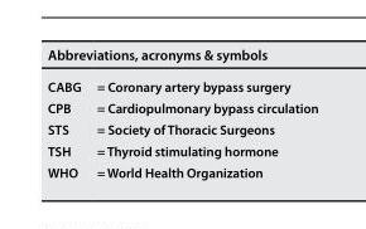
<table><thead><tr><td colspan="2">Abbreviations, acronyms &amp; symbols</td></tr><tr><td>CABG</td><td>= Coronary artery bypass surgery</td></tr></thead><tbody><tr><td>CPB</td><td>= Cardiopulmonary bypass circulation</td></tr><tr><td>STS</td><td>= Society of Thoracic Surgeons</td></tr><tr><td>TSH</td><td>= Thyroid stimulating hormone</td></tr><tr><td>WHO</td><td>= World Health Organization</td></tr></tbody></table>